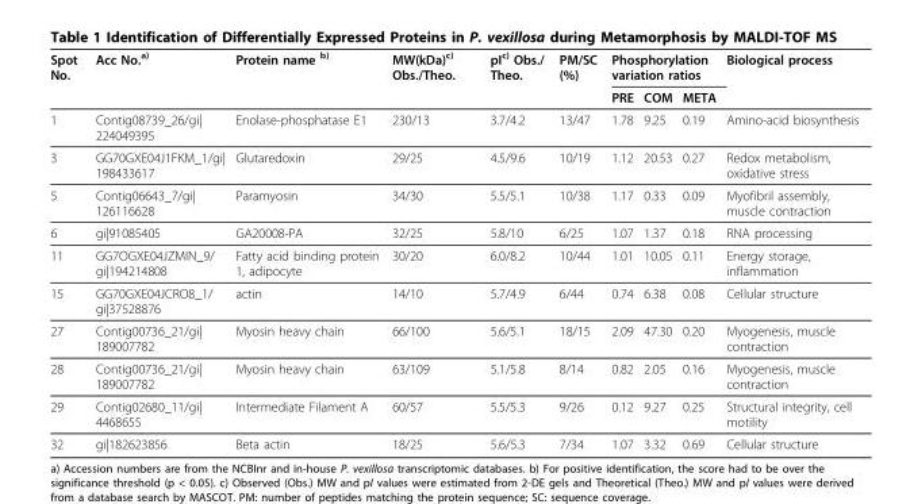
<table><thead><tr><td rowspan="2">Spot No.</td><td rowspan="2">Acc No.<sup>a)</sup></td><td rowspan="2">Protein name <sup>b)</sup></td><td rowspan="2">MW(kDa)<sup>c)</sup> Obs./Theo.</td><td rowspan="2">pI<sup>c)</sup> Obs./ Theo.</td><td rowspan="2">PM/SC (%)</td><td colspan="3">Phosphorylation variation ratios</td><td rowspan="2">Biological process</td></tr><tr><td>PRE</td><td>COM</td><td>META</td></tr></thead><tbody><tr><td>1</td><td>Contig08739_26/gi| 224049395</td><td>Enolase-phosphatase E1</td><td>230/13</td><td>3.7/4.2</td><td>13/47</td><td>1.78</td><td>9.25</td><td>0.19</td><td>Amino-acid biosynthesis</td></tr><tr><td>3</td><td>GG70GXE04J1FKM_1/gi| 198433617</td><td>Glutaredoxin</td><td>29/25</td><td>4.5/9.6</td><td>10/19</td><td>1.12</td><td>20.53</td><td>0.27</td><td>Redox metabolism, oxidative stress</td></tr><tr><td>5</td><td>Contig06643_7/gi| 126116628</td><td>Paramyosin</td><td>34/30</td><td>5.5/5.1</td><td>10/38</td><td>1.17</td><td>0.33</td><td>0.09</td><td>Myofibril assembly, muscle contraction</td></tr><tr><td>6</td><td>gi|91085405</td><td>GA20008-PA</td><td>32/25</td><td>5.8/10</td><td>6/25</td><td>1.07</td><td>1.37</td><td>0.18</td><td>RNA processing</td></tr><tr><td>11</td><td>GG7OGXE04JZMIN_9/ gi|194214808</td><td>Fatty acid binding protein 1, adipocyte</td><td>30/20</td><td>6.0/8.2</td><td>10/44</td><td>1.01</td><td>10.05</td><td>0.11</td><td>Energy storage, inflammation</td></tr><tr><td>15</td><td>GG70GXE04JCRO8_1/ gi|37528876</td><td>actin</td><td>14/10</td><td>5.7/4.9</td><td>6/44</td><td>0.74</td><td>6.38</td><td>0.08</td><td>Cellular structure</td></tr><tr><td>27</td><td>Contig00736_21/gi| 189007782</td><td>Myosin heavy chain</td><td>66/100</td><td>5.6/5.1</td><td>18/15</td><td>2.09</td><td>47.30</td><td>0.20</td><td>Myogenesis, muscle contraction</td></tr><tr><td>28</td><td>Contig00736_21/gi| 189007782</td><td>Myosin heavy chain</td><td>63/109</td><td>5.1/5.8</td><td>8/14</td><td>0.82</td><td>2.05</td><td>0.16</td><td>Myogenesis, muscle contraction</td></tr><tr><td>29</td><td>Contig02680_11/gi| 4468655</td><td>Intermediate Filament A</td><td>60/57</td><td>5.5/5.3</td><td>9/26</td><td>0.12</td><td>9.27</td><td>0.25</td><td>Structural integrity, cell motility</td></tr><tr><td>32</td><td>gi|182623856</td><td>Beta actin</td><td>18/25</td><td>5.6/5.3</td><td>7/34</td><td>1.07</td><td>3.32</td><td>0.69</td><td>Cellular structure</td></tr></tbody></table>